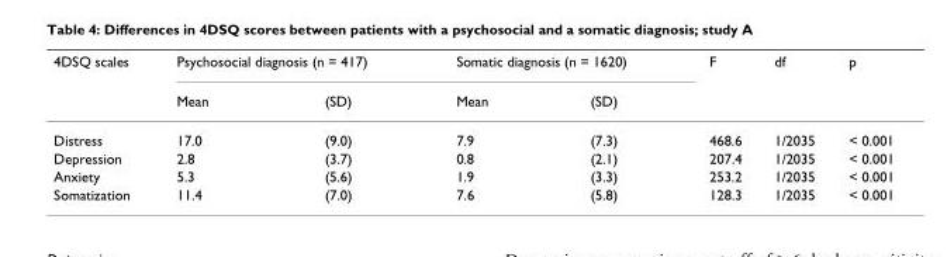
<table><thead><tr><td rowspan="2">4DSQ scales</td><td colspan="2">Psychosocial diagnosis (n = 417)</td><td colspan="2">Somatic diagnosis (n = 1620)</td><td rowspan="2">F</td><td rowspan="2">df</td><td rowspan="2">p</td></tr><tr><td>Mean</td><td>(SD)</td><td>Mean</td><td>(SD)</td></tr></thead><tbody><tr><td>Distress</td><td>17.0</td><td>(9.0)</td><td>7.9</td><td>(7.3)</td><td>468.6</td><td>1/2035</td><td>&lt; 0.001</td></tr><tr><td>Depression</td><td>2.8</td><td>(3.7)</td><td>0.8</td><td>(2.1)</td><td>207.4</td><td>1/2035</td><td>&lt; 0.001</td></tr><tr><td>Anxiety</td><td>5.3</td><td>(5.6)</td><td>1.9</td><td>(3.3)</td><td>253.2</td><td>1/2035</td><td>&lt; 0.001</td></tr><tr><td>Somatization</td><td>11.4</td><td>(7.0)</td><td>7.6</td><td>(5.8)</td><td>128.3</td><td>1/2035</td><td>&lt; 0.001</td></tr></tbody></table>